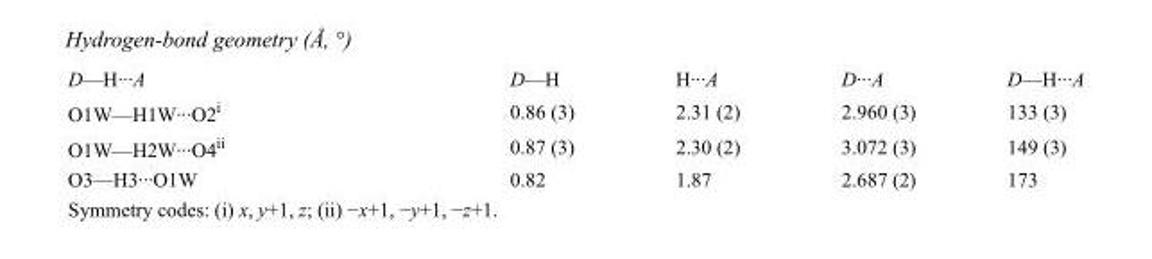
<table><tbody><tr><td>D—H···A</td><td>D—H</td><td>H···A</td><td>D···A</td><td>D—H···A</td></tr><tr><td>O1W—H1W···O2<sup>i</sup></td><td>0.86 (3)</td><td>2.31 (2)</td><td>2.960 (3)</td><td>133 (3)</td></tr><tr><td>O1W—H2W···O4<sup>ii</sup></td><td>0.87 (3)</td><td>2.30 (2)</td><td>3.072 (3)</td><td>149 (3)</td></tr><tr><td>O3—H3···O1W</td><td>0.82</td><td>1.87</td><td>2.687 (2)</td><td>173</td></tr></tbody></table>